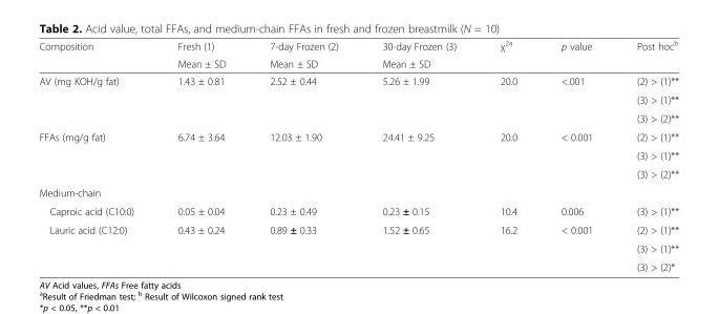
<table><thead><tr><td rowspan="2">Composition</td><td rowspan="2">Fresh (1) Mean ± SD</td><td rowspan="2">7-day Frozen (2) Mean ± SD</td><td rowspan="2">30-day Frozen (3) Mean ± SD</td><td rowspan="2">χ<sup>2a</sup></td><td rowspan="2">p value</td><td rowspan="2">Post hoc<sup>b</sup></td></tr><tr></tr></thead><tbody><tr><td rowspan="3">AV (mg KOH/g fat)</td><td rowspan="3">1.43 ± 0.81</td><td rowspan="3">2.52 ± 0.44</td><td rowspan="3">5.26 ± 1.99</td><td rowspan="3">20.0</td><td rowspan="3">&lt;.001</td><td>(2) &gt; (1)**</td></tr><tr><td>(3) &gt; (1)**</td></tr><tr><td>(3) &gt; (2)**</td></tr><tr><td rowspan="3">FFAs (mg/g fat)</td><td rowspan="3">6.74 ± 3.64</td><td rowspan="3">12.03 ± 1.90</td><td rowspan="3">24.41 ± 9.25</td><td rowspan="3">20.0</td><td rowspan="3">&lt; 0.001</td><td>(2) &gt; (1)**</td></tr><tr><td>(3) &gt; (1)**</td></tr><tr><td>(3) &gt; (2)**</td></tr><tr><td colspan="7">Medium-chain</td></tr><tr><td>Caproic acid (C10:0)</td><td>0.05 ± 0.04</td><td>0.23 ± 0.49</td><td>0.23 ± 0.15</td><td>10.4</td><td>0.006</td><td>(3) &gt; (1)**</td></tr><tr><td rowspan="3">Lauric acid (C12:0)</td><td rowspan="3">0.43 ± 0.24</td><td rowspan="3">0.89 ± 0.33</td><td rowspan="3">1.52 ± 0.65</td><td rowspan="3">16.2</td><td rowspan="3">&lt; 0.001</td><td>(2) &gt; (1)**</td></tr><tr><td>(3) &gt; (1)**</td></tr><tr><td>(3) &gt; (2)*</td></tr></tbody></table>